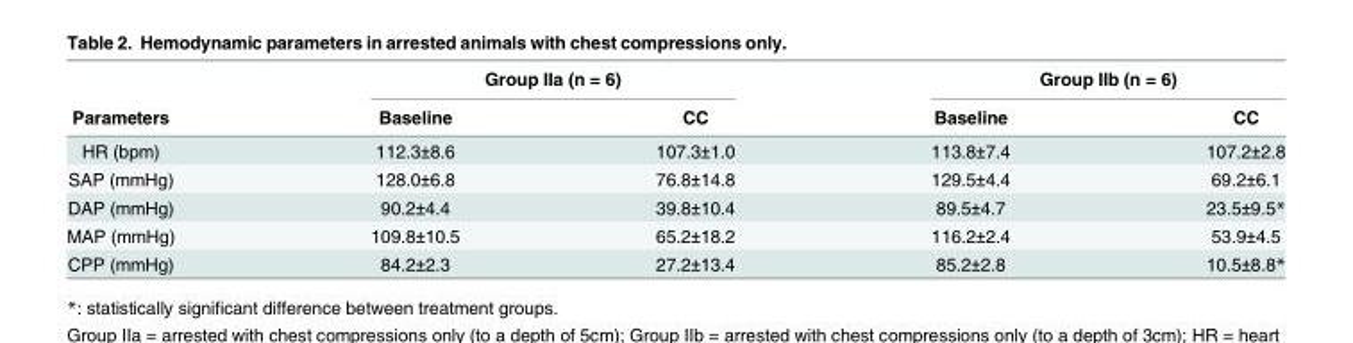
<table><thead><tr><td rowspan="2">Parameters</td><td colspan="2">Group IIa (n = 6)</td><td colspan="2">Group IIb (n = 6)</td></tr><tr><td>Baseline</td><td>CC</td><td>Baseline</td><td>CC</td></tr></thead><tbody><tr><td>HR (bpm)</td><td>112.3±8.6</td><td>107.3±1.0</td><td>113.8±7.4</td><td>107.2±2.8</td></tr><tr><td>SAP (mmHg)</td><td>128.0±6.8</td><td>76.8±14.8</td><td>129.5±4.4</td><td>69.2±6.1</td></tr><tr><td>DAP (mmHg)</td><td>90.2±4.4</td><td>39.8±10.4</td><td>89.5±4.7</td><td>23.5±9.5*</td></tr><tr><td>MAP (mmHg)</td><td>109.8±10.5</td><td>65.2±18.2</td><td>116.2±2.4</td><td>53.9±4.5</td></tr><tr><td>CPP (mmHg)</td><td>84.2±2.3</td><td>27.2±13.4</td><td>85.2±2.8</td><td>10.5±8.8*</td></tr></tbody></table>